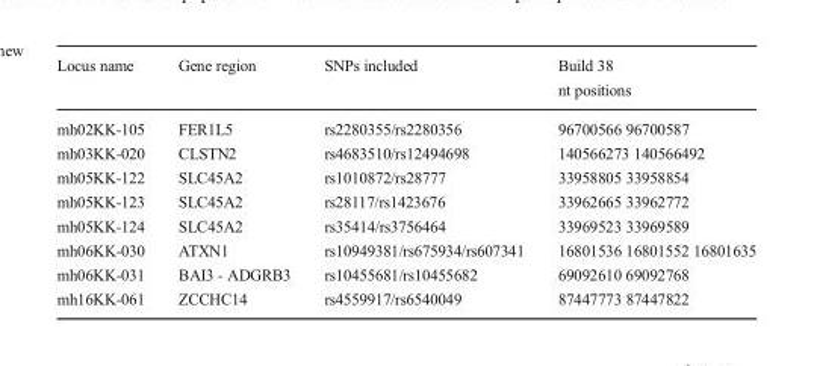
<table><thead><tr><td>Locus name</td><td>Gene region</td><td>SNPs included</td><td>Build 38 nt positions</td></tr></thead><tbody><tr><td>mh02KK-105</td><td>FER1L5</td><td>rs2280355/rs2280356</td><td>96700566 96700587</td></tr><tr><td>mh03KK-020</td><td>CLSTN2</td><td>rs4683510/rs12494698</td><td>140566273 140566492</td></tr><tr><td>mh05KK-122</td><td>SLC45A2</td><td>rs1010872/rs28777</td><td>33958805 33958854</td></tr><tr><td>mh05KK-123</td><td>SLC45A2</td><td>rs28117/rs1423676</td><td>33962665 33962772</td></tr><tr><td>mh05KK-124</td><td>SLC45A2</td><td>rs35414/rs3756464</td><td>33969523 33969589</td></tr><tr><td>mh06KK-030</td><td>ATXN1</td><td>rs10949381/rs675934/rs607341</td><td>16801536 16801552 16801635</td></tr><tr><td>mh06KK-031</td><td>BAI3 - ADGRB3</td><td>rs10455681/rs10455682</td><td>69092610 69092768</td></tr><tr><td>mh16KK-061</td><td>ZCCHC14</td><td>rs4559917/rs6540049</td><td>87447773 87447822</td></tr></tbody></table>